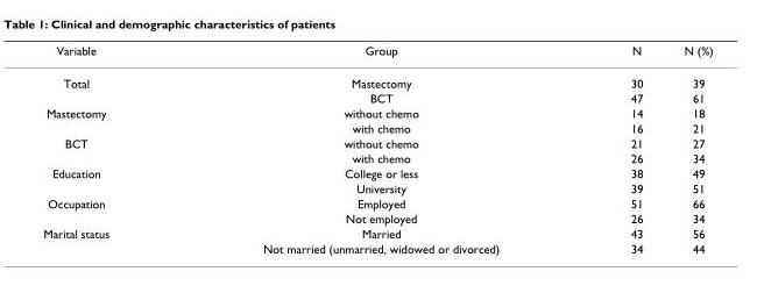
<table><thead><tr><td>Variable</td><td>Group</td><td>N</td><td>N (%)</td></tr></thead><tbody><tr><td rowspan="2">Total</td><td>Mastectomy</td><td>30</td><td>39</td></tr><tr><td>BCT</td><td>47</td><td>61</td></tr><tr><td rowspan="2">Mastectomy</td><td>without chemo</td><td>14</td><td>18</td></tr><tr><td>with chemo</td><td>16</td><td>21</td></tr><tr><td rowspan="2">BCT</td><td>without chemo</td><td>21</td><td>27</td></tr><tr><td>with chemo</td><td>26</td><td>34</td></tr><tr><td rowspan="2">Education</td><td>College or less</td><td>38</td><td>49</td></tr><tr><td>University</td><td>39</td><td>51</td></tr><tr><td rowspan="2">Occupation</td><td>Employed</td><td>51</td><td>66</td></tr><tr><td>Not employed</td><td>26</td><td>34</td></tr><tr><td rowspan="2">Marital status</td><td>Married</td><td>43</td><td>56</td></tr><tr><td>Not married (unmarried, widowed or divorced)</td><td>34</td><td>44</td></tr></tbody></table>